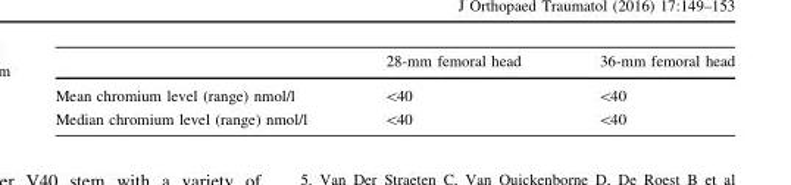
<table><thead><tr><td></td><td>28-mm femoral head</td><td>36-mm femoral head</td></tr></thead><tbody><tr><td>Mean chromium level (range) nmol/l</td><td>&lt;40</td><td>&lt;40</td></tr><tr><td>Median chromium level (range) nmol/l</td><td>&lt;40</td><td>&lt;40</td></tr></tbody></table>